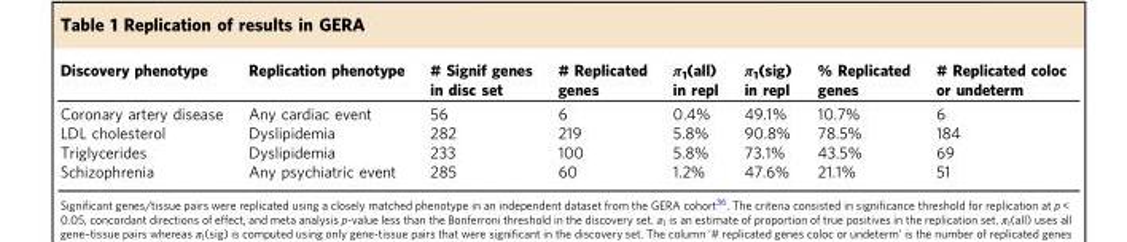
<table><thead><tr><td>Discovery phenotype</td><td>Replication phenotype</td><td># Signif genes in disc set</td><td># Replicated genes</td><td>π<sub>1</sub>(all) in repl</td><td>π<sub>1</sub>(sig) in repl</td><td>% Replicated genes</td><td># Replicated coloc or undeterm</td></tr></thead><tbody><tr><td>Coronary artery disease</td><td>Any cardiac event</td><td>56</td><td>6</td><td>0.4%</td><td>49.1%</td><td>10.7%</td><td>6</td></tr><tr><td>LDL cholesterol</td><td>Dyslipidemia</td><td>282</td><td>219</td><td>5.8%</td><td>90.8%</td><td>78.5%</td><td>184</td></tr><tr><td>Triglycerides</td><td>Dyslipidemia</td><td>233</td><td>100</td><td>5.8%</td><td>73.1%</td><td>43.5%</td><td>69</td></tr><tr><td>Schizophrenia</td><td>Any psychiatric event</td><td>285</td><td>60</td><td>1.2%</td><td>47.6%</td><td>21.1%</td><td>51</td></tr></tbody></table>